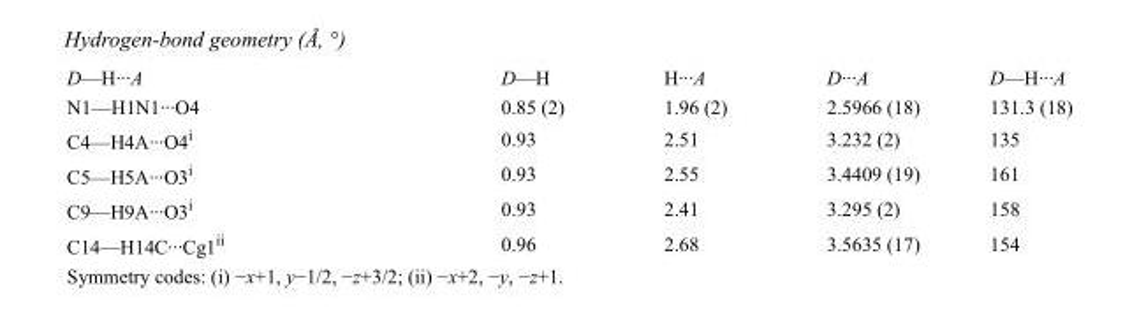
<table><tbody><tr><td>D—H···A</td><td>D—H</td><td>H···A</td><td>D···A</td><td>D—H···A</td></tr><tr><td>N1—H1N1···O4</td><td>0.85 (2)</td><td>1.96 (2)</td><td>2.5966 (18)</td><td>131.3 (18)</td></tr><tr><td>C4—H4A···O4<sup>i</sup></td><td>0.93</td><td>2.51</td><td>3.232 (2)</td><td>135</td></tr><tr><td>C5—H5A···O3<sup>i</sup></td><td>0.93</td><td>2.55</td><td>3.4409 (19)</td><td>161</td></tr><tr><td>C9—H9A···O3<sup>i</sup></td><td>0.93</td><td>2.41</td><td>3.295 (2)</td><td>158</td></tr><tr><td>C14—H14C···Cg1<sup>ii</sup></td><td>0.96</td><td>2.68</td><td>3.5635 (17)</td><td>154</td></tr></tbody></table>